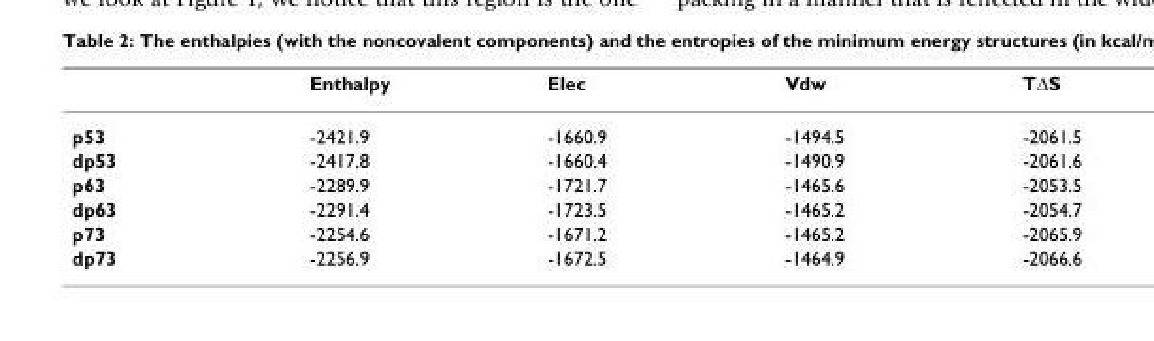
<table><thead><tr><td></td><td>Enthalpy</td><td>Elec</td><td>Vdw</td><td>TΔS</td></tr></thead><tbody><tr><td>p53</td><td>-2421.9</td><td>-1660.9</td><td>-1494.5</td><td>-2061.5</td></tr><tr><td>dp53</td><td>-2417.8</td><td>-1660.4</td><td>-1490.9</td><td>-2061.6</td></tr><tr><td>p63</td><td>-2289.9</td><td>-1721.7</td><td>-1465.6</td><td>-2053.5</td></tr><tr><td>dp63</td><td>-2291.4</td><td>-1723.5</td><td>-1465.2</td><td>-2054.7</td></tr><tr><td>p73</td><td>-2254.6</td><td>-1671.2</td><td>-1465.2</td><td>-2065.9</td></tr><tr><td>dp73</td><td>-2256.9</td><td>-1672.5</td><td>-1464.9</td><td>-2066.6</td></tr></tbody></table>